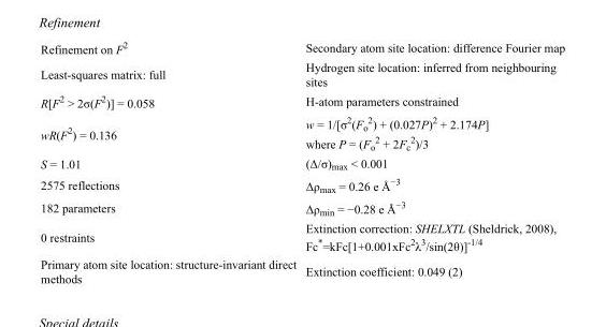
<table><tbody><tr><td>Refinement on F<sup>2</sup></td><td>Secondary atom site location: difference Fourier map</td></tr><tr><td>Least-squares matrix: full</td><td>Hydrogen site location: inferred from neighbouring sites</td></tr><tr><td>R[F<sup>2</sup> &gt; 2σ(F<sup>2</sup>)] = 0.058</td><td>H-atom parameters constrained</td></tr><tr><td>wR(F<sup>2</sup>) = 0.136</td><td>w = 1/[σ<sup>2</sup>(F<sub>o</sub> <sup>2</sup>) + (0.027P)<sup>2</sup> + 2.174P] where P = (F<sub>o</sub> <sup>2</sup> + 2F<sub>c</sub> <sup>2</sup>)/3</td></tr><tr><td>S = 1.01</td><td>(Δ/σ)<sub>max</sub> &lt; 0.001</td></tr><tr><td>2575 reflections</td><td>Δρ<sub>max</sub> = 0.26 e Å<sup>−3</sup></td></tr><tr><td>182 parameters</td><td>Δρ<sub>min</sub> = −0.28 e Å<sup>−3</sup></td></tr><tr><td>0 restraints</td><td>Extinction correction: SHELXTL (Sheldrick, 2008), Fc*=kFc[1+0.001xFc<sup>2</sup>λ<sup>3</sup>/sin(2θ)]<sup>-1/4</sup></td></tr><tr><td>Primary atom site location: structure-invariant direct methods</td><td>Extinction coefficient: 0.049 (2)</td></tr></tbody></table>